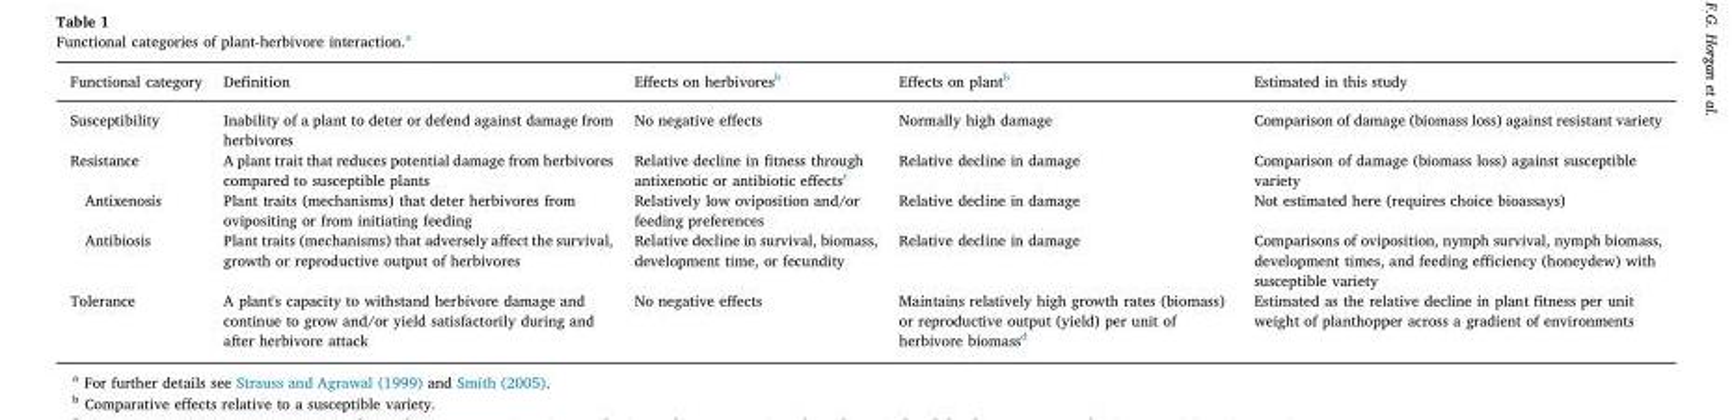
<table><thead><tr><td>Functional category</td><td>Definition</td><td>Effects on herbivores<sup>b</sup></td><td>Effects on plant<sup>b</sup></td><td>Estimated in this study</td></tr></thead><tbody><tr><td>Susceptibility</td><td>Inability of a plant to deter or defend against damage from herbivores</td><td>No negative effects</td><td>Normally high damage</td><td>Comparison of damage (biomass loss) against resistant variety</td></tr><tr><td>Resistance</td><td>A plant trait that reduces potential damage from herbivores compared to susceptible plants</td><td>Relative decline in fitness through antixenotic or antibiotic effects<sup>c</sup></td><td>Relative decline in damage</td><td>Comparison of damage (biomass loss) against susceptible variety</td></tr><tr><td>Antixenosis</td><td>Plant traits (mechanisms) that deter herbivores from ovipositing or from initiating feeding</td><td>Relatively low oviposition and/or feeding preferences</td><td>Relative decline in damage</td><td>Not estimated here (requires choice bioassays)</td></tr><tr><td>Antibiosis</td><td>Plant traits (mechanisms) that adversely affect the survival, growth or reproductive output of herbivores</td><td>Relative decline in survival, biomass, development time, or fecundity</td><td>Relative decline in damage</td><td>Comparisons of oviposition, nymph survival, nymph biomass, development times, and feeding efficiency (honeydew) with susceptible variety</td></tr><tr><td>Tolerance</td><td>A plant&#x27;s capacity to withstand herbivore damage and continue to grow and/or yield satisfactorily during and after herbivore attack</td><td>No negative effects</td><td>Maintains relatively high growth rates (biomass) or reproductive output (yield) per unit of herbivore biomass<sup>d</sup></td><td>Estimated as the relative decline in plant fitness per unit weight of planthopper across a gradient of environments</td></tr></tbody></table>